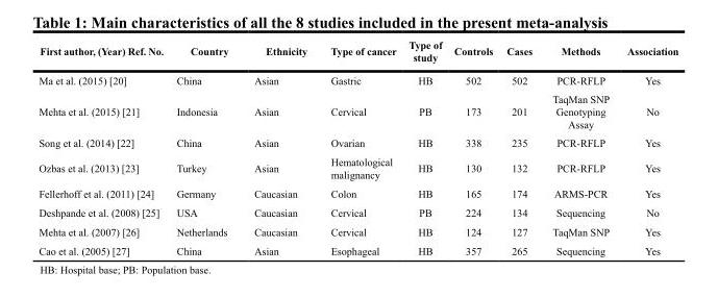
<table><thead><tr><td>First author, (Year) Ref. No.</td><td>Country</td><td>Ethnicity</td><td>Type of cancer</td><td>Type of study</td><td>Controls</td><td>Cases</td><td>Methods</td><td>Association</td></tr></thead><tbody><tr><td>Ma et al. (2015) [20]</td><td>China</td><td>Asian</td><td>Gastric</td><td>HB</td><td>502</td><td>502</td><td>PCR-RFLP</td><td>Yes</td></tr><tr><td>Mehta et al. (2015) [21]</td><td>Indonesia</td><td>Asian</td><td>Cervical</td><td>PB</td><td>173</td><td>201</td><td>TaqMan SNP Genotyping Assay</td><td>No</td></tr><tr><td>Song et al. (2014) [22]</td><td>China</td><td>Asian</td><td>Ovarian</td><td>HB</td><td>338</td><td>235</td><td>PCR-RFLP</td><td>Yes</td></tr><tr><td>Ozbas et al. (2013) [23]</td><td>Turkey</td><td>Asian</td><td>Hematological malignancy</td><td>HB</td><td>130</td><td>132</td><td>PCR-RFLP</td><td>Yes</td></tr><tr><td>Fellerhoff et al. (2011) [24]</td><td>Germany</td><td>Caucasian</td><td>Colon</td><td>HB</td><td>165</td><td>174</td><td>ARMS-PCR</td><td>Yes</td></tr><tr><td>Deshpande et al. (2008) [25]</td><td>USA</td><td>Caucasian</td><td>Cervical</td><td>PB</td><td>224</td><td>134</td><td>Sequencing</td><td>No</td></tr><tr><td>Mehta et al. (2007) [26]</td><td>Netherlands</td><td>Caucasian</td><td>Cervical</td><td>HB</td><td>124</td><td>127</td><td>TaqMan SNP</td><td>Yes</td></tr><tr><td>Cao et al. (2005) [27]</td><td>China</td><td>Asian</td><td>Esophageal</td><td>HB</td><td>357</td><td>265</td><td>Sequencing</td><td>Yes</td></tr></tbody></table>